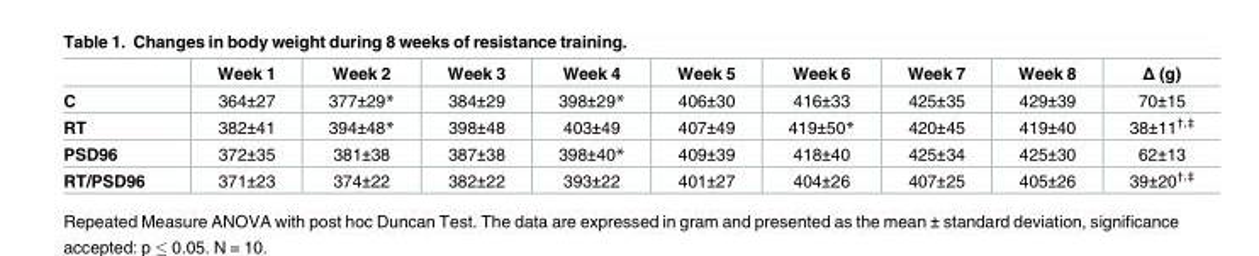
<table><thead><tr><td></td><td>Week 1</td><td>Week 2</td><td>Week 3</td><td>Week 4</td><td>Week 5</td><td>Week 6</td><td>Week 7</td><td>Week 8</td><td>Δ (g)</td></tr></thead><tbody><tr><td>C</td><td>364±27</td><td>377±29*</td><td>384±29</td><td>398±29*</td><td>406±30</td><td>416±33</td><td>425±35</td><td>429±39</td><td>70±15</td></tr><tr><td>RT</td><td>382±41</td><td>394±48*</td><td>398±48</td><td>403±49</td><td>407±49</td><td>419±50*</td><td>420±45</td><td>419±40</td><td>38±11<sup>†,‡</sup></td></tr><tr><td>PSD96</td><td>372±35</td><td>381±38</td><td>387±38</td><td>398±40*</td><td>409±39</td><td>418±40</td><td>425±34</td><td>425±30</td><td>62±13</td></tr><tr><td>RT/PSD96</td><td>371±23</td><td>374±22</td><td>382±22</td><td>393±22</td><td>401±27</td><td>404±26</td><td>407±25</td><td>405±26</td><td>39±20<sup>†,‡</sup></td></tr></tbody></table>